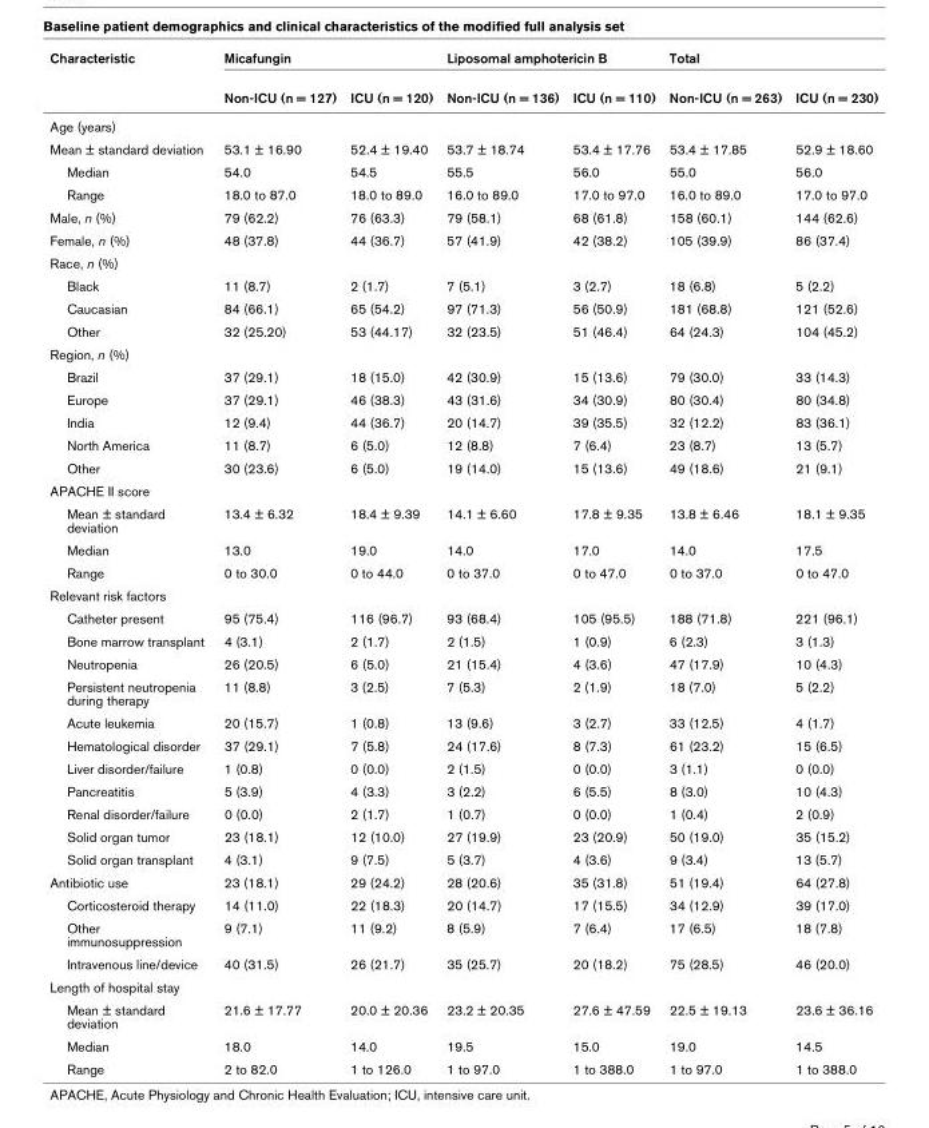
<table><thead><tr><td rowspan="2">Characteristic</td><td colspan="2">Micafungin</td><td colspan="2">Liposomal amphotericin B</td><td colspan="2">Total</td></tr><tr><td>Non-ICU (n = 127)</td><td>ICU (n = 120)</td><td>Non-ICU (n = 136)</td><td>ICU (n = 110)</td><td>Non-ICU (n = 263)</td><td>ICU (n = 230)</td></tr></thead><tbody><tr><td colspan="7">Age (years)</td></tr><tr><td>Mean ± standard deviation</td><td>53.1 ± 16.90</td><td>52.4 ± 19.40</td><td>53.7 ± 18.74</td><td>53.4 ± 17.76</td><td>53.4 ± 17.85</td><td>52.9 ± 18.60</td></tr><tr><td>Median</td><td>54.0</td><td>54.5</td><td>55.5</td><td>56.0</td><td>55.0</td><td>56.0</td></tr><tr><td>Range</td><td>18.0 to 87.0</td><td>18.0 to 89.0</td><td>16.0 to 89.0</td><td>17.0 to 97.0</td><td>16.0 to 89.0</td><td>17.0 to 97.0</td></tr><tr><td>Male, n (%)</td><td>79 (62.2)</td><td>76 (63.3)</td><td>79 (58.1)</td><td>68 (61.8)</td><td>158 (60.1)</td><td>144 (62.6)</td></tr><tr><td>Female, n (%)</td><td>48 (37.8)</td><td>44 (36.7)</td><td>57 (41.9)</td><td>42 (38.2)</td><td>105 (39.9)</td><td>86 (37.4)</td></tr><tr><td colspan="7">Race, n (%)</td></tr><tr><td>Black</td><td>11 (8.7)</td><td>2 (1.7)</td><td>7 (5.1)</td><td>3 (2.7)</td><td>18 (6.8)</td><td>5 (2.2)</td></tr><tr><td>Caucasian</td><td>84 (66.1)</td><td>65 (54.2)</td><td>97 (71.3)</td><td>56 (50.9)</td><td>181 (68.8)</td><td>121 (52.6)</td></tr><tr><td>Other</td><td>32 (25.20)</td><td>53 (44.17)</td><td>32 (23.5)</td><td>51 (46.4)</td><td>64 (24.3)</td><td>104 (45.2)</td></tr><tr><td colspan="7">Region, n (%)</td></tr><tr><td>Brazil</td><td>37 (29.1)</td><td>18 (15.0)</td><td>42 (30.9)</td><td>15 (13.6)</td><td>79 (30.0)</td><td>33 (14.3)</td></tr><tr><td>Europe</td><td>37 (29.1)</td><td>46 (38.3)</td><td>43 (31.6)</td><td>34 (30.9)</td><td>80 (30.4)</td><td>80 (34.8)</td></tr><tr><td>India</td><td>12 (9.4)</td><td>44 (36.7)</td><td>20 (14.7)</td><td>39 (35.5)</td><td>32 (12.2)</td><td>83 (36.1)</td></tr><tr><td>North America</td><td>11 (8.7)</td><td>6 (5.0)</td><td>12 (8.8)</td><td>7 (6.4)</td><td>23 (8.7)</td><td>13 (5.7)</td></tr><tr><td>Other</td><td>30 (23.6)</td><td>6 (5.0)</td><td>19 (14.0)</td><td>15 (13.6)</td><td>49 (18.6)</td><td>21 (9.1)</td></tr><tr><td colspan="7">APACHE II score</td></tr><tr><td>Mean ± standard deviation</td><td>13.4 ± 6.32</td><td>18.4 ± 9.39</td><td>14.1 ± 6.60</td><td>17.8 ± 9.35</td><td>13.8 ± 6.46</td><td>18.1 ± 9.35</td></tr><tr><td>Median</td><td>13.0</td><td>19.0</td><td>14.0</td><td>17.0</td><td>14.0</td><td>17.5</td></tr><tr><td>Range</td><td>0 to 30.0</td><td>0 to 44.0</td><td>0 to 37.0</td><td>0 to 47.0</td><td>0 to 37.0</td><td>0 to 47.0</td></tr><tr><td colspan="7">Relevant risk factors</td></tr><tr><td>Catheter present</td><td>95 (75.4)</td><td>116 (96.7)</td><td>93 (68.4)</td><td>105 (95.5)</td><td>188 (71.8)</td><td>221 (96.1)</td></tr><tr><td>Bone marrow transplant</td><td>4 (3.1)</td><td>2 (1.7)</td><td>2 (1.5)</td><td>1 (0.9)</td><td>6 (2.3)</td><td>3 (1.3)</td></tr><tr><td>Neutropenia</td><td>26 (20.5)</td><td>6 (5.0)</td><td>21 (15.4)</td><td>4 (3.6)</td><td>47 (17.9)</td><td>10 (4.3)</td></tr><tr><td>Persistent neutropenia during therapy</td><td>11 (8.8)</td><td>3 (2.5)</td><td>7 (5.3)</td><td>2 (1.9)</td><td>18 (7.0)</td><td>5 (2.2)</td></tr><tr><td>Acute leukemia</td><td>20 (15.7)</td><td>1 (0.8)</td><td>13 (9.6)</td><td>3 (2.7)</td><td>33 (12.5)</td><td>4 (1.7)</td></tr><tr><td>Hematological disorder</td><td>37 (29.1)</td><td>7 (5.8)</td><td>24 (17.6)</td><td>8 (7.3)</td><td>61 (23.2)</td><td>15 (6.5)</td></tr><tr><td>Liver disorder/failure</td><td>1 (0.8)</td><td>0 (0.0)</td><td>2 (1.5)</td><td>0 (0.0)</td><td>3 (1.1)</td><td>0 (0.0)</td></tr><tr><td>Pancreatitis</td><td>5 (3.9)</td><td>4 (3.3)</td><td>3 (2.2)</td><td>6 (5.5)</td><td>8 (3.0)</td><td>10 (4.3)</td></tr><tr><td>Renal disorder/failure</td><td>0 (0.0)</td><td>2 (1.7)</td><td>1 (0.7)</td><td>0 (0.0)</td><td>1 (0.4)</td><td>2 (0.9)</td></tr><tr><td>Solid organ tumor</td><td>23 (18.1)</td><td>12 (10.0)</td><td>27 (19.9)</td><td>23 (20.9)</td><td>50 (19.0)</td><td>35 (15.2)</td></tr><tr><td>Solid organ transplant</td><td>4 (3.1)</td><td>9 (7.5)</td><td>5 (3.7)</td><td>4 (3.6)</td><td>9 (3.4)</td><td>13 (5.7)</td></tr><tr><td>Antibiotic use</td><td>23 (18.1)</td><td>29 (24.2)</td><td>28 (20.6)</td><td>35 (31.8)</td><td>51 (19.4)</td><td>64 (27.8)</td></tr><tr><td>Corticosteroid therapy</td><td>14 (11.0)</td><td>22 (18.3)</td><td>20 (14.7)</td><td>17 (15.5)</td><td>34 (12.9)</td><td>39 (17.0)</td></tr><tr><td>Other immunosuppression</td><td>9 (7.1)</td><td>11 (9.2)</td><td>8 (5.9)</td><td>7 (6.4)</td><td>17 (6.5)</td><td>18 (7.8)</td></tr><tr><td>Intravenous line/device</td><td>40 (31.5)</td><td>26 (21.7)</td><td>35 (25.7)</td><td>20 (18.2)</td><td>75 (28.5)</td><td>46 (20.0)</td></tr><tr><td colspan="7">Length of hospital stay</td></tr><tr><td>Mean ± standard deviation</td><td>21.6 ± 17.77</td><td>20.0 ± 20.36</td><td>23.2 ± 20.35</td><td>27.6 ± 47.59</td><td>22.5 ± 19.13</td><td>23.6 ± 36.16</td></tr><tr><td>Median</td><td>18.0</td><td>14.0</td><td>19.5</td><td>15.0</td><td>19.0</td><td>14.5</td></tr><tr><td>Range</td><td>2 to 82.0</td><td>1 to 126.0</td><td>1 to 97.0</td><td>1 to 388.0</td><td>1 to 97.0</td><td>1 to 388.0</td></tr></tbody></table>